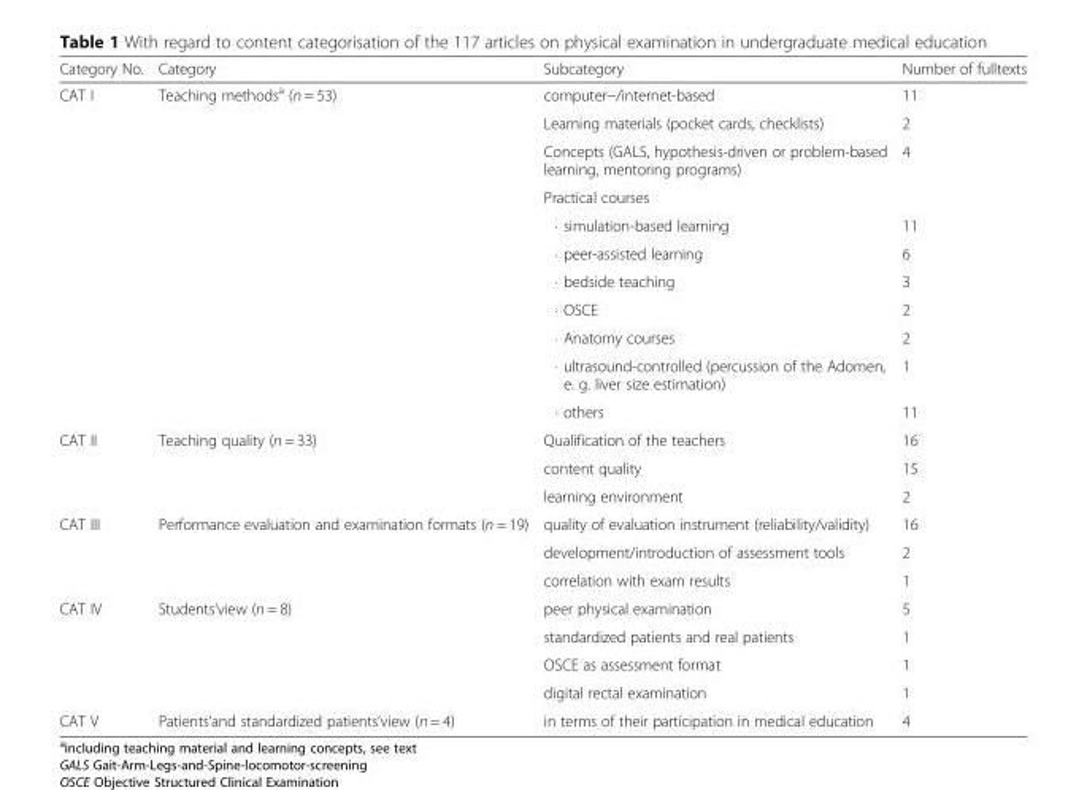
<table><thead><tr><td>Category No.</td><td>Category</td><td>Subcategory</td><td>Number of fulltexts</td></tr></thead><tbody><tr><td rowspan="11">CAT I</td><td rowspan="11">Teaching methods<sup>a</sup> (n = 53)</td><td>computer−/internet-based</td><td>11</td></tr><tr><td>Learning materials (pocket cards, checklists)</td><td>2</td></tr><tr><td>Concepts (GALS, hypothesis-driven or problem-based learning, mentoring programs)</td><td>4</td></tr><tr><td>Practical courses</td><td></td></tr><tr><td>⋅ simulation-based learning</td><td>11</td></tr><tr><td>⋅ peer-assisted learning</td><td>6</td></tr><tr><td>⋅ bedside teaching</td><td>3</td></tr><tr><td>⋅ OSCE</td><td>2</td></tr><tr><td>⋅ Anatomy courses</td><td>2</td></tr><tr><td>⋅ ultrasound-controlled (percussion of the Adomen, e. g. liver size estimation)</td><td>1</td></tr><tr><td>⋅ others</td><td>11</td></tr><tr><td rowspan="3">CAT II</td><td rowspan="3">Teaching quality (n = 33)</td><td>Qualification of the teachers</td><td>16</td></tr><tr><td>content quality</td><td>15</td></tr><tr><td>learning environment</td><td>2</td></tr><tr><td rowspan="3">CAT III</td><td rowspan="3">Performance evaluation and examination formats (n = 19)</td><td>quality of evaluation instrument (reliability/validity)</td><td>16</td></tr><tr><td>development/introduction of assessment tools</td><td>2</td></tr><tr><td>correlation with exam results</td><td>1</td></tr><tr><td rowspan="4">CAT IV</td><td rowspan="4">Students‘view (n = 8)</td><td>peer physical examination</td><td>5</td></tr><tr><td>standardized patients and real patients</td><td>1</td></tr><tr><td>OSCE as assessment format</td><td>1</td></tr><tr><td>digital rectal examination</td><td>1</td></tr><tr><td>CAT V</td><td>Patients‘and standardized patients‘view (n = 4)</td><td>in terms of their participation in medical education</td><td>4</td></tr></tbody></table>